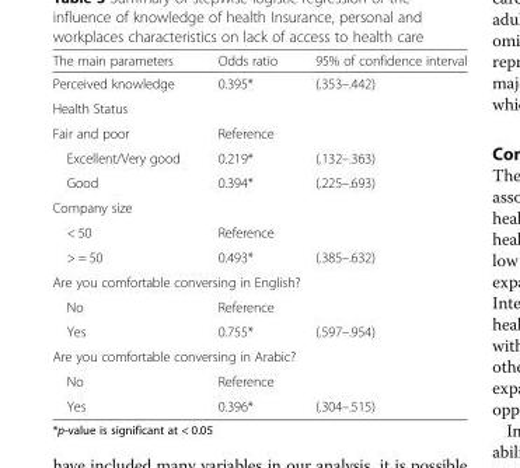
<table><thead><tr><td>The main parameters</td><td>Odds ratio</td><td>95% of confidence interval</td></tr></thead><tbody><tr><td>Perceived knowledge</td><td>0.395*</td><td>(.353–.442)</td></tr><tr><td colspan="3">Health Status</td></tr><tr><td>Fair and poor</td><td colspan="2">Reference</td></tr><tr><td>Excellent/Very good</td><td>0.219*</td><td>(.132–.363)</td></tr><tr><td>Good</td><td>0.394*</td><td>(.225–.693)</td></tr><tr><td colspan="3">Company size</td></tr><tr><td>&lt; 50</td><td colspan="2">Reference</td></tr><tr><td>&gt; = 50</td><td>0.493*</td><td>(.385–.632)</td></tr><tr><td colspan="3">Are you comfortable conversing in English?</td></tr><tr><td>No</td><td colspan="2">Reference</td></tr><tr><td>Yes</td><td>0.755*</td><td>(.597–.954)</td></tr><tr><td colspan="3">Are you comfortable conversing in Arabic?</td></tr><tr><td>No</td><td colspan="2">Reference</td></tr><tr><td>Yes</td><td>0.396*</td><td>(.304–.515)</td></tr></tbody></table>